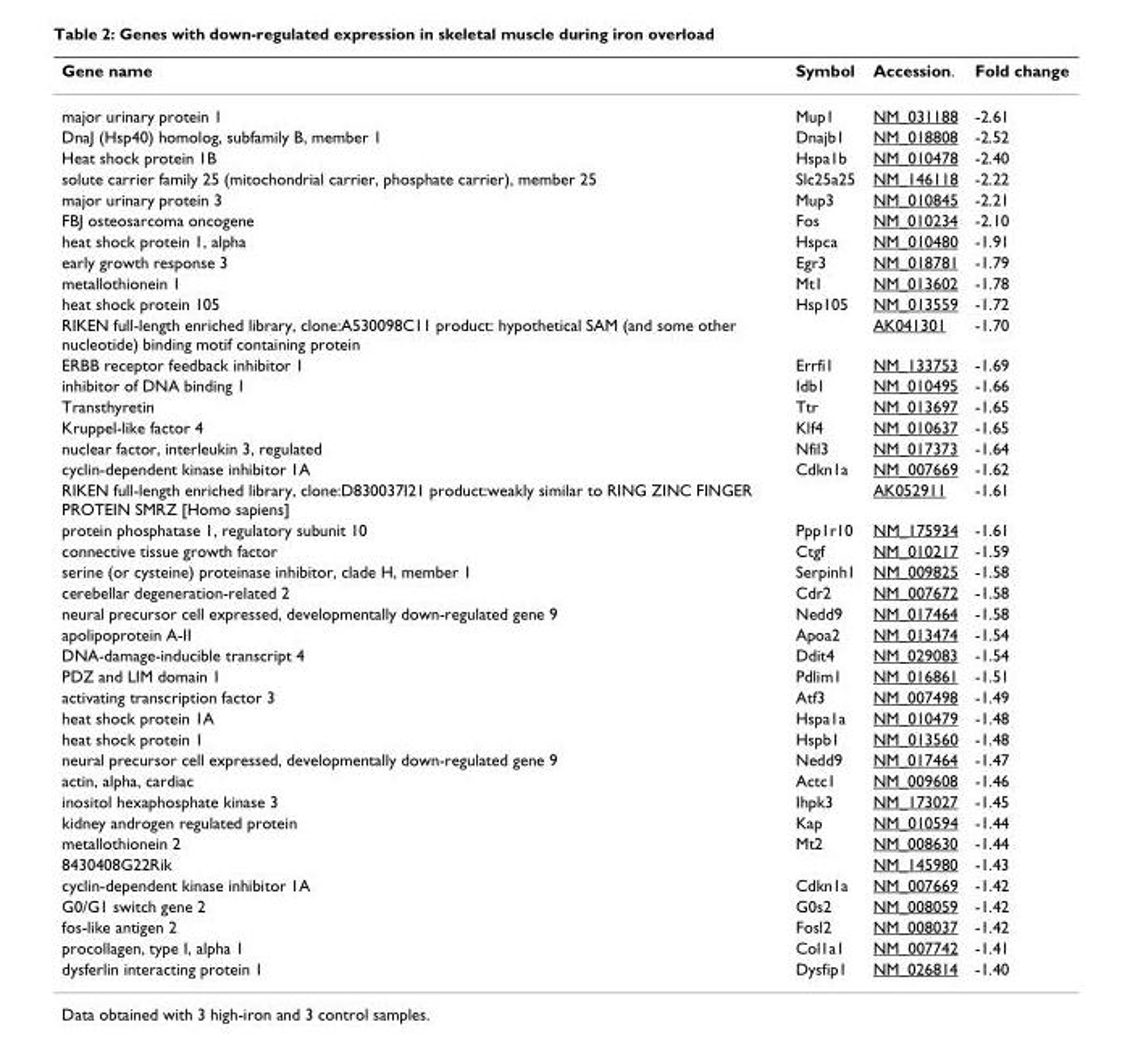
<table><thead><tr><td>Gene name</td><td>Symbol</td><td>Accession.</td><td>Fold change</td></tr></thead><tbody><tr><td>major urinary protein 1</td><td>Mup1</td><td>NM_031188</td><td>-2.61</td></tr><tr><td>DnaJ (Hsp40) homolog, subfamily B, member 1</td><td>Dnajb1</td><td>NM_018808</td><td>-2.52</td></tr><tr><td>Heat shock protein 1B</td><td>Hspa1b</td><td>NM_010478</td><td>-2.40</td></tr><tr><td>solute carrier family 25 (mitochondrial carrier, phosphate carrier), member 25</td><td>Slc25a25</td><td>NM_146118</td><td>-2.22</td></tr><tr><td>major urinary protein 3</td><td>Mup3</td><td>NM_010845</td><td>-2.21</td></tr><tr><td>FBJ osteosarcoma oncogene</td><td>Fos</td><td>NM_010234</td><td>-2.10</td></tr><tr><td>heat shock protein 1, alpha</td><td>Hspca</td><td>NM_010480</td><td>-1.91</td></tr><tr><td>early growth response 3</td><td>Egr3</td><td>NM_018781</td><td>-1.79</td></tr><tr><td>metallothionein 1</td><td>Mt1</td><td>NM_013602</td><td>-1.78</td></tr><tr><td>heat shock protein 105</td><td>Hsp105</td><td>NM_013559</td><td>-1.72</td></tr><tr><td>RIKEN full-length enriched library, clone:A530098C11 product: hypothetical SAM (and some other nucleotide) binding motif containing protein</td><td></td><td>AK041301</td><td>-1.70</td></tr><tr><td>ERBB receptor feedback inhibitor 1</td><td>Errfi1</td><td>NM_133753</td><td>-1.69</td></tr><tr><td>inhibitor of DNA binding 1</td><td>Idb1</td><td>NM_010495</td><td>-1.66</td></tr><tr><td>Transthyretin</td><td>Ttr</td><td>NM_013697</td><td>-1.65</td></tr><tr><td>Kruppel-like factor 4</td><td>Klf4</td><td>NM_010637</td><td>-1.65</td></tr><tr><td>nuclear factor, interleukin 3, regulated</td><td>Nfil3</td><td>NM_017373</td><td>-1.64</td></tr><tr><td>cyclin-dependent kinase inhibitor 1A</td><td>Cdkn1a</td><td>NM_007669</td><td>-1.62</td></tr><tr><td>RIKEN full-length enriched library, clone:D830037I21 product:weakly similar to RING ZINC FINGER PROTEIN SMRZ [Homo sapiens]</td><td></td><td>AK052911</td><td>-1.61</td></tr><tr><td>protein phosphatase 1, regulatory subunit 10</td><td>Ppp1r10</td><td>NM_175934</td><td>-1.61</td></tr><tr><td>connective tissue growth factor</td><td>Ctgf</td><td>NM_010217</td><td>-1.59</td></tr><tr><td>serine (or cysteine) proteinase inhibitor, clade H, member 1</td><td>Serpinh1</td><td>NM_009825</td><td>-1.58</td></tr><tr><td>cerebellar degeneration-related 2</td><td>Cdr2</td><td>NM_007672</td><td>-1.58</td></tr><tr><td>neural precursor cell expressed, developmentally down-regulated gene 9</td><td>Nedd9</td><td>NM_017464</td><td>-1.58</td></tr><tr><td>apolipoprotein A-II</td><td>Apoa2</td><td>NM_013474</td><td>-1.54</td></tr><tr><td>DNA-damage-inducible transcript 4</td><td>Ddit4</td><td>NM_029083</td><td>-1.54</td></tr><tr><td>PDZ and LIM domain 1</td><td>Pdlim1</td><td>NM_016861</td><td>-1.51</td></tr><tr><td>activating transcription factor 3</td><td>Atf3</td><td>NM_007498</td><td>-1.49</td></tr><tr><td>heat shock protein 1A</td><td>Hspa1a</td><td>NM_010479</td><td>-1.48</td></tr><tr><td>heat shock protein 1</td><td>Hspb1</td><td>NM_013560</td><td>-1.48</td></tr><tr><td>neural precursor cell expressed, developmentally down-regulated gene 9</td><td>Nedd9</td><td>NM_017464</td><td>-1.47</td></tr><tr><td>actin, alpha, cardiac</td><td>Actc1</td><td>NM_009608</td><td>-1.46</td></tr><tr><td>inositol hexaphosphate kinase 3</td><td>Ihpk3</td><td>NM_173027</td><td>-1.45</td></tr><tr><td>kidney androgen regulated protein</td><td>Kap</td><td>NM_010594</td><td>-1.44</td></tr><tr><td>metallothionein 2</td><td>Mt2</td><td>NM_008630</td><td>-1.44</td></tr><tr><td>8430408G22Rik</td><td></td><td>NM_145980</td><td>-1.43</td></tr><tr><td>cyclin-dependent kinase inhibitor 1A</td><td>Cdkn1a</td><td>NM_007669</td><td>-1.42</td></tr><tr><td>G0/G1 switch gene 2</td><td>G0s2</td><td>NM_008059</td><td>-1.42</td></tr><tr><td>fos-like antigen 2</td><td>Fosl2</td><td>NM_008037</td><td>-1.42</td></tr><tr><td>procollagen, type I, alpha 1</td><td>Col1a1</td><td>NM_007742</td><td>-1.41</td></tr><tr><td>dysferlin interacting protein 1</td><td>Dysfip1</td><td>NM_026814</td><td>-1.40</td></tr></tbody></table>